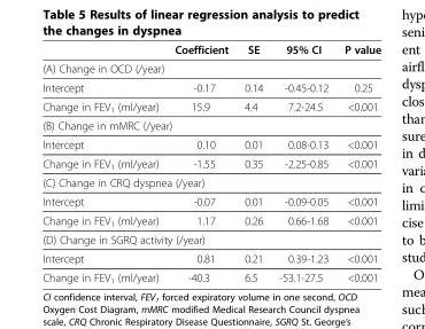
<table><thead><tr><td></td><td>Coefficient</td><td>SE</td><td>95% CI</td><td>P value</td></tr></thead><tbody><tr><td colspan="5">(A) Change in OCD (/year)</td></tr><tr><td>Intercept</td><td>-0.17</td><td>0.14</td><td>-0.45-0.12</td><td>0.25</td></tr><tr><td>Change in FEV<sub>1</sub> (ml/year)</td><td>15.9</td><td>4.4</td><td>7.2-24.5</td><td>&lt;0.001</td></tr><tr><td colspan="5">(B) Change in mMRC (/year)</td></tr><tr><td>Intercept</td><td>0.10</td><td>0.01</td><td>0.08-0.13</td><td>&lt;0.001</td></tr><tr><td>Change in FEV<sub>1</sub> (ml/year)</td><td>-1.55</td><td>0.35</td><td>-2.25-0.85</td><td>&lt;0.001</td></tr><tr><td colspan="5">(C) Change in CRQ dyspnea (/year)</td></tr><tr><td>Intercept</td><td>-0.07</td><td>0.01</td><td>-0.09-0.05</td><td>&lt;0.001</td></tr><tr><td>Change in FEV<sub>1</sub> (ml/year)</td><td>1.17</td><td>0.26</td><td>0.66-1.68</td><td>&lt;0.001</td></tr><tr><td colspan="5">(D) Change in SGRQ activity (/year)</td></tr><tr><td>Intercept</td><td>0.81</td><td>0.21</td><td>0.39-1.23</td><td>&lt;0.001</td></tr><tr><td>Change in FEV<sub>1</sub> (ml/year)</td><td>-40.3</td><td>6.5</td><td>-53.1-27.5</td><td>&lt;0.001</td></tr></tbody></table>